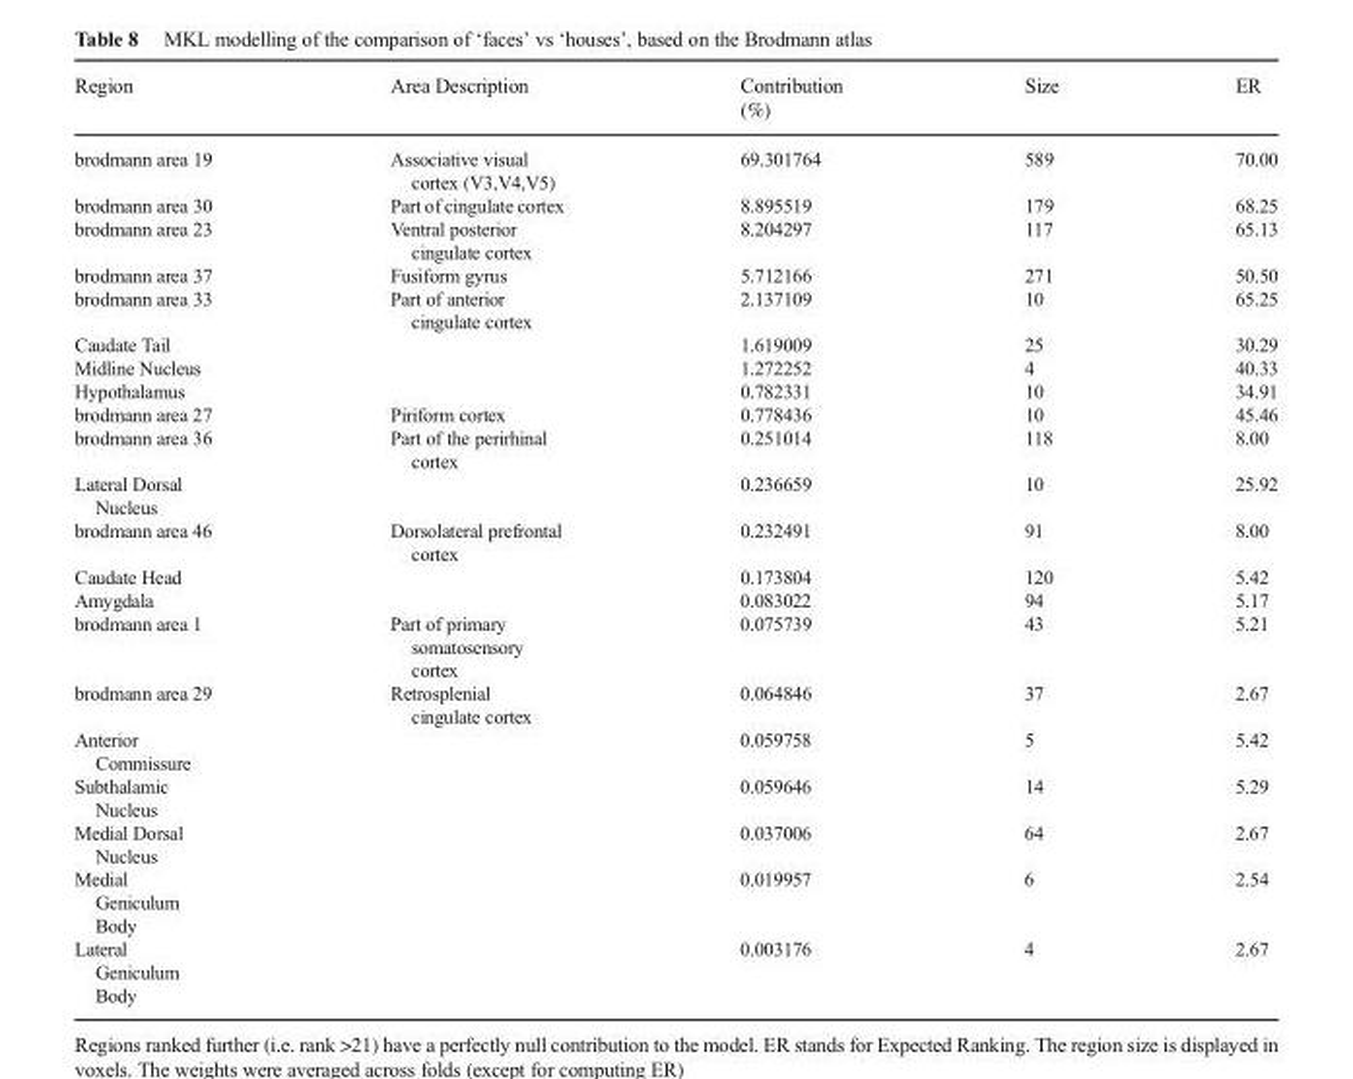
<table><thead><tr><td>Region</td><td>Area Description</td><td>Contribution (%)</td><td>Size</td><td>ER</td></tr></thead><tbody><tr><td>brodmann area 19</td><td>Associative visual cortex (V3,V4,V5)</td><td>69.301764</td><td>589</td><td>70.00</td></tr><tr><td>brodmann area 30</td><td>Part of cingulate cortex</td><td>8.895519</td><td>179</td><td>68.25</td></tr><tr><td>brodmann area 23</td><td>Ventral posterior cingulate cortex</td><td>8.204297</td><td>117</td><td>65.13</td></tr><tr><td>brodmann area 37</td><td>Fusiform gyrus</td><td>5.712166</td><td>271</td><td>50.50</td></tr><tr><td>brodmann area 33</td><td>Part of anterior cingulate cortex</td><td>2.137109</td><td>10</td><td>65.25</td></tr><tr><td>Caudate Tail</td><td></td><td>1.619009</td><td>25</td><td>30.29</td></tr><tr><td>Midline Nucleus</td><td></td><td>1.272252</td><td>4</td><td>40.33</td></tr><tr><td>Hypothalamus</td><td></td><td>0.782331</td><td>10</td><td>34.91</td></tr><tr><td>brodmann area 27</td><td>Piriform cortex</td><td>0.778436</td><td>10</td><td>45.46</td></tr><tr><td>brodmann area 36</td><td>Part of the perirhinal cortex</td><td>0.251014</td><td>118</td><td>8.00</td></tr><tr><td>Lateral Dorsal Nucleus</td><td></td><td>0.236659</td><td>10</td><td>25.92</td></tr><tr><td>brodmann area 46</td><td>Dorsolateral prefrontal cortex</td><td>0.232491</td><td>91</td><td>8.00</td></tr><tr><td>Caudate Head</td><td></td><td>0.173804</td><td>120</td><td>5.42</td></tr><tr><td>Amygdala</td><td></td><td>0.083022</td><td>94</td><td>5.17</td></tr><tr><td>brodmann area 1</td><td>Part of primary somatosensory cortex</td><td>0.075739</td><td>43</td><td>5.21</td></tr><tr><td>brodmann area 29</td><td>Retrosplenial cingulate cortex</td><td>0.064846</td><td>37</td><td>2.67</td></tr><tr><td>Anterior Commissure</td><td></td><td>0.059758</td><td>5</td><td>5.42</td></tr><tr><td>Subthalamic Nucleus</td><td></td><td>0.059646</td><td>14</td><td>5.29</td></tr><tr><td>Medial Dorsal Nucleus</td><td></td><td>0.037006</td><td>64</td><td>2.67</td></tr><tr><td>Medial Geniculum Body</td><td></td><td>0.019957</td><td>6</td><td>2.54</td></tr><tr><td>Lateral Geniculum Body</td><td></td><td>0.003176</td><td>4</td><td>2.67</td></tr></tbody></table>